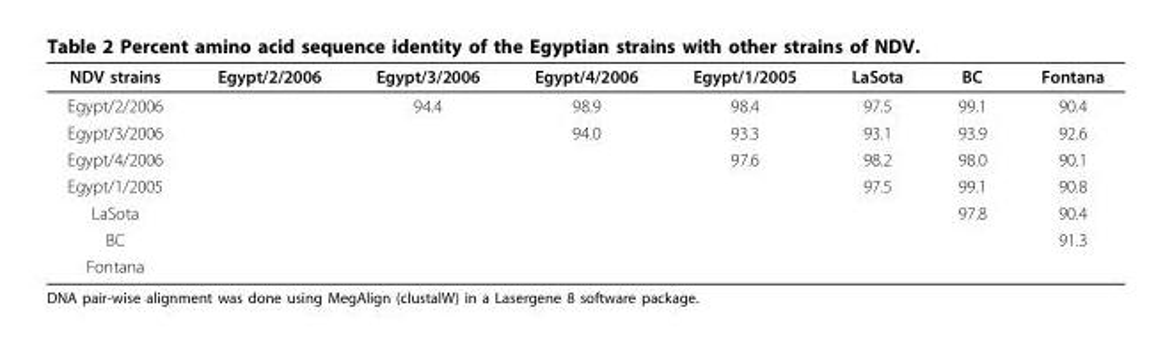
<table><thead><tr><td>NDV strains</td><td>Egypt/2/2006</td><td>Egypt/3/2006</td><td>Egypt/4/2006</td><td>Egypt/1/2005</td><td>LaSota</td><td>BC</td><td>Fontana</td></tr></thead><tbody><tr><td>Egypt/2/2006</td><td></td><td>94.4</td><td>98.9</td><td>98.4</td><td>97.5</td><td>99.1</td><td>90.4</td></tr><tr><td>Egypt/3/2006</td><td></td><td></td><td>94.0</td><td>93.3</td><td>93.1</td><td>93.9</td><td>92.6</td></tr><tr><td>Egypt/4/2006</td><td></td><td></td><td></td><td>97.6</td><td>98.2</td><td>98.0</td><td>90.1</td></tr><tr><td>Egypt/1/2005</td><td></td><td></td><td></td><td></td><td>97.5</td><td>99.1</td><td>90.8</td></tr><tr><td>LaSota</td><td></td><td></td><td></td><td></td><td></td><td>97.8</td><td>90.4</td></tr><tr><td>BC</td><td></td><td></td><td></td><td></td><td></td><td></td><td>91.3</td></tr><tr><td>Fontana</td><td></td><td></td><td></td><td></td><td></td><td></td><td></td></tr></tbody></table>